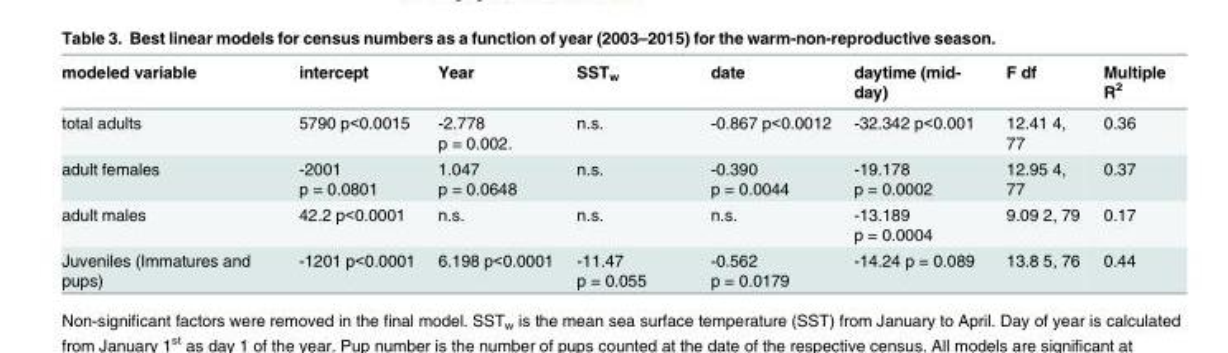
<table><thead><tr><td>modeled variable</td><td>intercept</td><td>Year</td><td>SST<sub>w</sub></td><td>date</td><td>daytime (mid- day)</td><td>F df</td><td>Multiple R<sup>2</sup></td></tr></thead><tbody><tr><td>total adults</td><td>5790 p&lt;0.0015</td><td>-2.778 p = 0.002.</td><td>n.s.</td><td>-0.867 p&lt;0.0012</td><td>-32.342 p&lt;0.001</td><td>12.41 4, 77</td><td>0.36</td></tr><tr><td>adult females</td><td>-2001 p = 0.0801</td><td>1.047 p = 0.0648</td><td>n.s.</td><td>-0.390 p = 0.0044</td><td>-19.178 p = 0.0002</td><td>12.95 4, 77</td><td>0.37</td></tr><tr><td>adult males</td><td>42.2 p&lt;0.0001</td><td>n.s.</td><td>n.s.</td><td>n.s.</td><td>-13.189 p = 0.0004</td><td>9.09 2, 79</td><td>0.17</td></tr><tr><td>Juveniles (Immatures and pups)</td><td>-1201 p&lt;0.0001</td><td>6.198 p&lt;0.0001</td><td>-11.47 p = 0.055</td><td>-0.562 p = 0.0179</td><td>-14.24 p = 0.089</td><td>13.8 5, 76</td><td>0.44</td></tr></tbody></table>